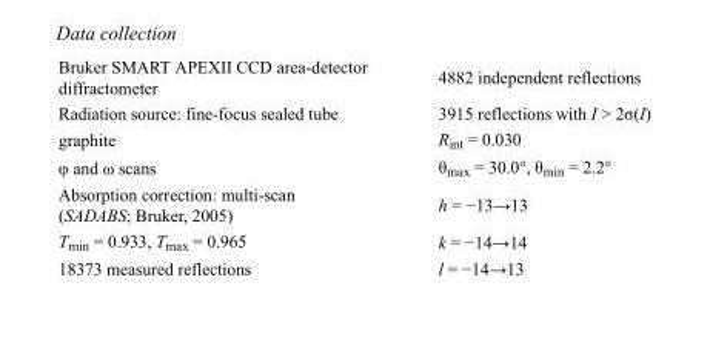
<table><tbody><tr><td>Bruker SMART APEXII CCD area-detector diffractometer</td><td>4882 independent reflections</td></tr><tr><td>Radiation source: fine-focus sealed tube</td><td>3915 reflections with I &gt; 2σ(I)</td></tr><tr><td>graphite</td><td>R<sub>int</sub> = 0.030</td></tr><tr><td>φ and ω scans</td><td>θ<sub>max</sub> = 30.0°, θ<sub>min</sub> = 2.2°</td></tr><tr><td>Absorption correction: multi-scan (SADABS; Bruker, 2005)</td><td>h = −13→13</td></tr><tr><td>T<sub>min</sub> = 0.933, T<sub>max</sub> = 0.965</td><td>k = −14→14</td></tr><tr><td>18373 measured reflections</td><td>l = −14→13</td></tr></tbody></table>